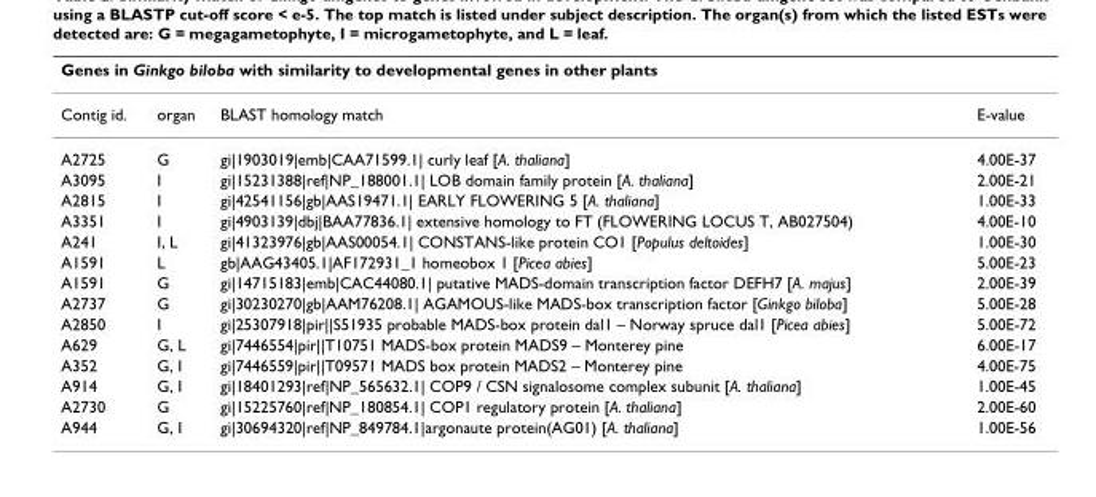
<table><thead><tr><td colspan="4">Genes in Ginkgo biloba with similarity to developmental genes in other plants</td></tr><tr><td>Contig id.</td><td>organ</td><td>BLAST homology match</td><td>E-value</td></tr></thead><tbody><tr><td>A2725</td><td>G</td><td>gi|1903019|emb|CAA71599.1| curly leaf [A. thaliana]</td><td>4.00E-37</td></tr><tr><td>A3095</td><td>I</td><td>gi|15231388|ref|NP_188001.1| LOB domain family protein [A. thaliana]</td><td>2.00E-21</td></tr><tr><td>A2815</td><td>I</td><td>gi|42541156|gb|AAS19471.1| EARLY FLOWERING 5 [A. thaliana]</td><td>1.00E-33</td></tr><tr><td>A3351</td><td>I</td><td>gi|4903139|dbj|BAA77836.1| extensive homology to FT (FLOWERING LOCUS T, AB027504)</td><td>4.00E-10</td></tr><tr><td>A241</td><td>I, L</td><td>gi|41323976|gb|AAS00054.1| CONSTANS-like protein CO1 [Populus deltoides]</td><td>1.00E-30</td></tr><tr><td>A1591</td><td>L</td><td>gb|AAG43405.1|AF172931_1 homeobox 1 [Picea abies]</td><td>5.00E-23</td></tr><tr><td>A1591</td><td>G</td><td>gi|14715183|emb|CAC44080.1| putative MADS-domain transcription factor DEFH7 [A. majus]</td><td>2.00E-39</td></tr><tr><td>A2737</td><td>G</td><td>gi|30230270|gb|AAM76208.1| AGAMOUS-like MADS-box transcription factor [Ginkgo biloba]</td><td>5.00E-28</td></tr><tr><td>A2850</td><td>I</td><td>gi|25307918|pir||S51935 probable MADS-box protein dal1 – Norway spruce dal1 [Picea abies]</td><td>5.00E-72</td></tr><tr><td>A629</td><td>G, L</td><td>gi|7446554|pir||T10751 MADS-box protein MADS9 – Monterey pine</td><td>6.00E-17</td></tr><tr><td>A352</td><td>G, I</td><td>gi|7446559|pir||T09571 MADS box protein MADS2 – Monterey pine</td><td>4.00E-75</td></tr><tr><td>A914</td><td>G, I</td><td>gi|18401293|ref|NP_565632.1| COP9 / CSN signalosome complex subunit [A. thaliana]</td><td>1.00E-45</td></tr><tr><td>A2730</td><td>G</td><td>gi|15225760|ref|NP_180854.1| COP1 regulatory protein [A. thaliana]</td><td>2.00E-60</td></tr><tr><td>A944</td><td>G, I</td><td>gi|30694320|ref|NP_849784.1|argonaute protein(AG01) [A. thaliana]</td><td>1.00E-56</td></tr></tbody></table>